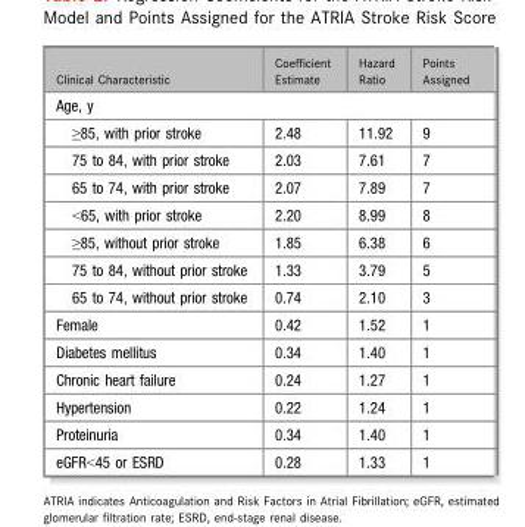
<table><thead><tr><td>Clinical Characteristic</td><td>Coefficient Estimate</td><td>Hazard Ratio</td><td>Points Assigned</td></tr></thead><tbody><tr><td colspan="4">Age, y</td></tr><tr><td>≥85, with prior stroke</td><td>2.48</td><td>11.92</td><td>9</td></tr><tr><td>75 to 84, with prior stroke</td><td>2.03</td><td>7.61</td><td>7</td></tr><tr><td>65 to 74, with prior stroke</td><td>2.07</td><td>7.89</td><td>7</td></tr><tr><td>&lt;65, with prior stroke</td><td>2.20</td><td>8.99</td><td>8</td></tr><tr><td>≥85, without prior stroke</td><td>1.85</td><td>6.38</td><td>6</td></tr><tr><td>75 to 84, without prior stroke</td><td>1.33</td><td>3.79</td><td>5</td></tr><tr><td>65 to 74, without prior stroke</td><td>0.74</td><td>2.10</td><td>3</td></tr><tr><td>Female</td><td>0.42</td><td>1.52</td><td>1</td></tr><tr><td>Diabetes mellitus</td><td>0.34</td><td>1.40</td><td>1</td></tr><tr><td>Chronic heart failure</td><td>0.24</td><td>1.27</td><td>1</td></tr><tr><td>Hypertension</td><td>0.22</td><td>1.24</td><td>1</td></tr><tr><td>Proteinuria</td><td>0.34</td><td>1.40</td><td>1</td></tr><tr><td>eGFR&lt;45 or ESRD</td><td>0.28</td><td>1.33</td><td>1</td></tr></tbody></table>